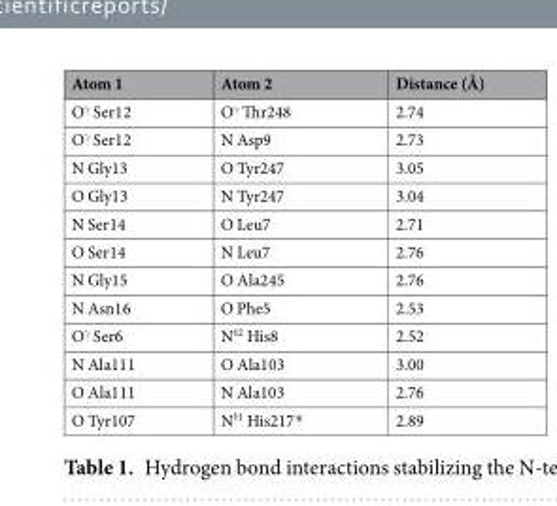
<table><thead><tr><td>Atom 1</td><td>Atom 2</td><td>Distance (Å)</td></tr></thead><tbody><tr><td>O<sup>γ</sup> Ser12</td><td>O<sup>γ</sup> Thr248</td><td>2.74</td></tr><tr><td>O<sup>γ</sup> Ser12</td><td>N Asp9</td><td>2.73</td></tr><tr><td>N Gly13</td><td>O Tyr247</td><td>3.05</td></tr><tr><td>O Gly13</td><td>N Tyr247</td><td>3.04</td></tr><tr><td>N Ser14</td><td>O Leu7</td><td>2.71</td></tr><tr><td>O Ser14</td><td>N Leu7</td><td>2.76</td></tr><tr><td>N Gly15</td><td>O Ala245</td><td>2.76</td></tr><tr><td>N Asn16</td><td>O Phe5</td><td>2.53</td></tr><tr><td>O<sup>γ</sup> Ser6</td><td>N<sup>δ2</sup> His8</td><td>2.52</td></tr><tr><td>N Ala111</td><td>O Ala103</td><td>3.00</td></tr><tr><td>O Ala111</td><td>N Ala103</td><td>2.76</td></tr><tr><td>O Tyr107</td><td>N<sup>δ1</sup> His217*</td><td>2.89</td></tr></tbody></table>